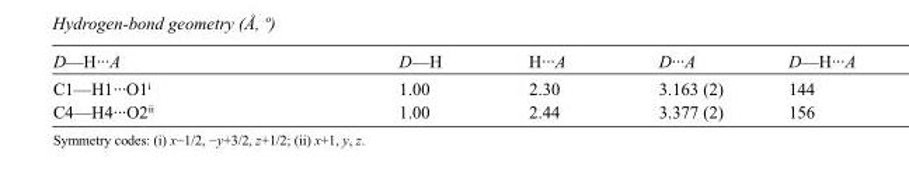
<table><tbody><tr><td>D—H···A</td><td>D—H</td><td>H···A</td><td>D···A</td><td>D—H···A</td></tr><tr><td>C1—H1···O1<sup>i</sup></td><td>1.00</td><td>2.30</td><td>3.163 (2)</td><td>144</td></tr><tr><td>C4—H4···O2<sup>ii</sup></td><td>1.00</td><td>2.44</td><td>3.377 (2)</td><td>156</td></tr></tbody></table>